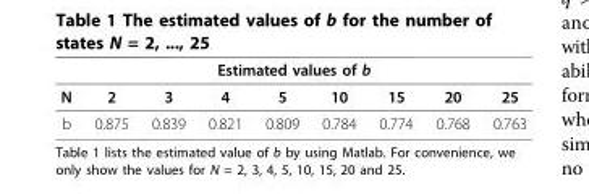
<table><thead><tr><td colspan="9">Estimated values of b</td></tr><tr><td>N</td><td>2</td><td>3</td><td>4</td><td>5</td><td>10</td><td>15</td><td>20</td><td>25</td></tr></thead><tbody><tr><td>b</td><td>0.875</td><td>0.839</td><td>0.821</td><td>0.809</td><td>0.784</td><td>0.774</td><td>0.768</td><td>0.763</td></tr></tbody></table>